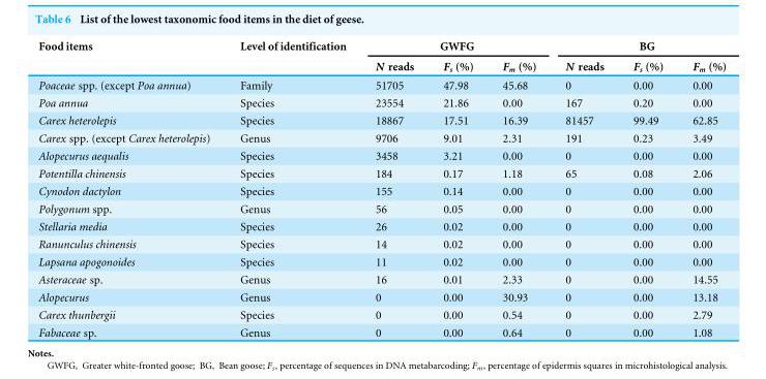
<table><thead><tr><td rowspan="2">Food items</td><td rowspan="2">Level of identification</td><td colspan="3">GWFG</td><td colspan="3">BG</td></tr><tr><td>N reads</td><td>F<sub>s</sub> (%)</td><td>F<sub>m</sub> (%)</td><td>N reads</td><td>F<sub>s</sub> (%)</td><td>F<sub>m</sub> (%)</td></tr></thead><tbody><tr><td>Poaceae spp. (except Poa annua)</td><td>Family</td><td>51705</td><td>47.98</td><td>45.68</td><td>0</td><td>0.00</td><td>0.00</td></tr><tr><td>Poa annua</td><td>Species</td><td>23554</td><td>21.86</td><td>0.00</td><td>167</td><td>0.20</td><td>0.00</td></tr><tr><td>Carex heterolepis</td><td>Species</td><td>18867</td><td>17.51</td><td>16.39</td><td>81457</td><td>99.49</td><td>62.85</td></tr><tr><td>Carex spp. (except Carex heterolepis)</td><td>Genus</td><td>9706</td><td>9.01</td><td>2.31</td><td>191</td><td>0.23</td><td>3.49</td></tr><tr><td>Alopecurus aequalis</td><td>Species</td><td>3458</td><td>3.21</td><td>0.00</td><td>0</td><td>0.00</td><td>0.00</td></tr><tr><td>Potentilla chinensis</td><td>Species</td><td>184</td><td>0.17</td><td>1.18</td><td>65</td><td>0.08</td><td>2.06</td></tr><tr><td>Cynodon dactylon</td><td>Species</td><td>155</td><td>0.14</td><td>0.00</td><td>0</td><td>0.00</td><td>0.00</td></tr><tr><td>Polygonum spp.</td><td>Genus</td><td>56</td><td>0.05</td><td>0.00</td><td>0</td><td>0.00</td><td>0.00</td></tr><tr><td>Stellaria media</td><td>Species</td><td>26</td><td>0.02</td><td>0.00</td><td>0</td><td>0.00</td><td>0.00</td></tr><tr><td>Ranunculus chinensis</td><td>Species</td><td>14</td><td>0.02</td><td>0.00</td><td>0</td><td>0.00</td><td>0.00</td></tr><tr><td>Lapsana apogonoides</td><td>Species</td><td>11</td><td>0.02</td><td>0.00</td><td>0</td><td>0.00</td><td>0.00</td></tr><tr><td>Asteraceae sp.</td><td>Genus</td><td>16</td><td>0.01</td><td>2.33</td><td>0</td><td>0.00</td><td>14.55</td></tr><tr><td>Alopecurus</td><td>Genus</td><td>0</td><td>0.00</td><td>30.93</td><td>0</td><td>0.00</td><td>13.18</td></tr><tr><td>Carex thunbergii</td><td>Species</td><td>0</td><td>0.00</td><td>0.54</td><td>0</td><td>0.00</td><td>2.79</td></tr><tr><td>Fabaceae sp.</td><td>Genus</td><td>0</td><td>0.00</td><td>0.64</td><td>0</td><td>0.00</td><td>1.08</td></tr></tbody></table>